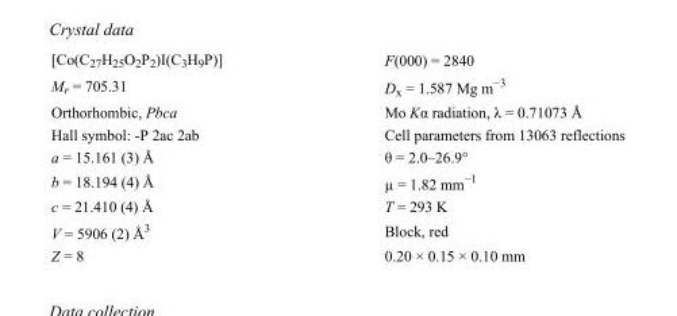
<table><tbody><tr><td>[Co(C<sub>27</sub>H<sub>25</sub>O<sub>2</sub>P<sub>2</sub>)I(C<sub>3</sub>H<sub>9</sub>P)]</td><td>F(000) = 2840</td></tr><tr><td>M<sub>r</sub> = 705.31</td><td>D<sub>x</sub> = 1.587 Mg m<sup>−3</sup></td></tr><tr><td>Orthorhombic, Pbca</td><td>Mo Kα radiation, λ = 0.71073 Å</td></tr><tr><td>Hall symbol: -P 2ac 2ab</td><td>Cell parameters from 13063 reflections</td></tr><tr><td>a = 15.161 (3) Å</td><td>θ = 2.0–26.9°</td></tr><tr><td>b = 18.194 (4) Å</td><td>µ = 1.82 mm<sup>−1</sup></td></tr><tr><td>c = 21.410 (4) Å</td><td>T = 293 K</td></tr><tr><td>V = 5906 (2) Å<sup>3</sup></td><td>Block, red</td></tr><tr><td>Z = 8</td><td>0.20 × 0.15 × 0.10 mm</td></tr></tbody></table>